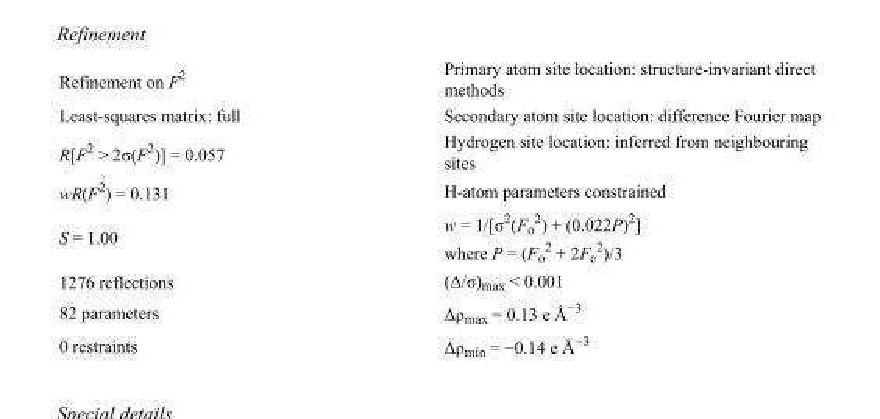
<table><tbody><tr><td>Refinement on F<sup>2</sup></td><td>Primary atom site location: structure-invariant direct methods</td></tr><tr><td>Least-squares matrix: full</td><td>Secondary atom site location: difference Fourier map</td></tr><tr><td>R[F<sup>2</sup> &gt; 2σ(F<sup>2</sup>)] = 0.057</td><td>Hydrogen site location: inferred from neighbouring sites</td></tr><tr><td>wR(F<sup>2</sup>) = 0.131</td><td>H-atom parameters constrained</td></tr><tr><td>S = 1.00</td><td>w = 1/[σ<sup>2</sup>(F<sub>o</sub> <sup>2</sup>) + (0.022P)<sup>2</sup>] where P = (F<sub>o</sub> <sup>2</sup> + 2F<sub>c</sub> <sup>2</sup>)/3</td></tr><tr><td>1276 reflections</td><td>(Δ/σ)<sub>max</sub> &lt; 0.001</td></tr><tr><td>82 parameters</td><td>Δρ<sub>max</sub> = 0.13 e Å<sup>−3</sup></td></tr><tr><td>0 restraints</td><td>Δρ<sub>min</sub> = −0.14 e Å<sup>−3</sup></td></tr></tbody></table>